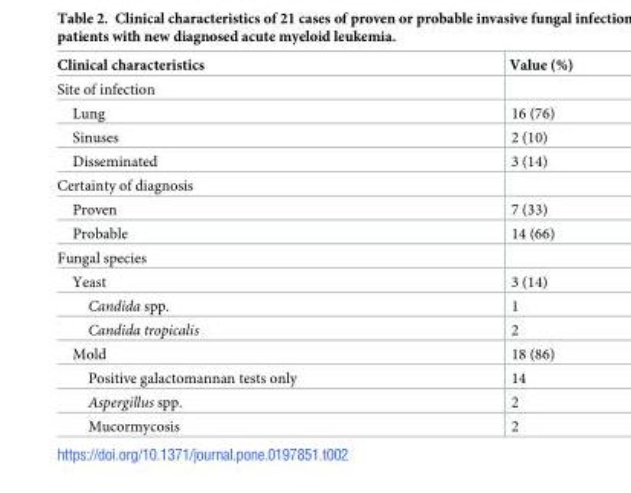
<table><thead><tr><td>Clinical characteristics</td><td>Value (%)</td></tr></thead><tbody><tr><td colspan="2">Site of infection</td></tr><tr><td>Lung</td><td>16 (76)</td></tr><tr><td>Sinuses</td><td>2 (10)</td></tr><tr><td>Disseminated</td><td>3 (14)</td></tr><tr><td colspan="2">Certainty of diagnosis</td></tr><tr><td>Proven</td><td>7 (33)</td></tr><tr><td>Probable</td><td>14 (66)</td></tr><tr><td colspan="2">Fungal species</td></tr><tr><td>Yeast</td><td>3 (14)</td></tr><tr><td>Candida spp.</td><td>1</td></tr><tr><td>Candida tropicalis</td><td>2</td></tr><tr><td>Mold</td><td>18 (86)</td></tr><tr><td>Positive galactomannan tests only</td><td>14</td></tr><tr><td>Aspergillus spp.</td><td>2</td></tr><tr><td>Mucormycosis</td><td>2</td></tr></tbody></table>